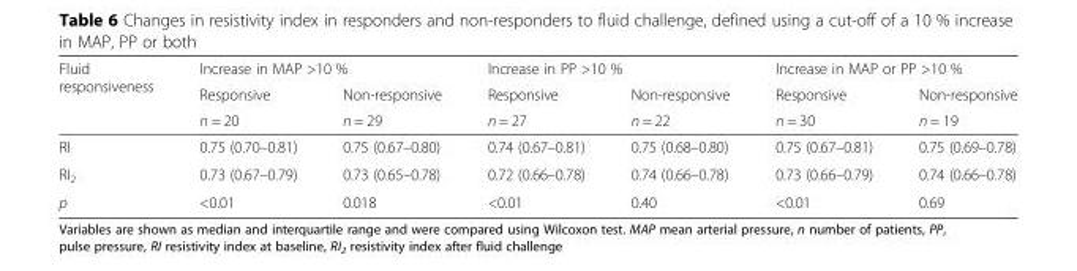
<table><thead><tr><td rowspan="3">Fluid responsiveness</td><td colspan="2">Increase in MAP &gt;10 %</td><td colspan="2">Increase in PP &gt;10 %</td><td colspan="2">Increase in MAP or PP &gt;10 %</td></tr><tr><td rowspan="2">Responsive n = 20</td><td rowspan="2">Non-responsive n = 29</td><td rowspan="2">Responsive n = 27</td><td rowspan="2">Non-responsive n = 22</td><td rowspan="2">Responsive n = 30</td><td rowspan="2">Non-responsive n = 19</td></tr><tr></tr></thead><tbody><tr><td>RI</td><td>0.75 (0.70–0.81)</td><td>0.75 (0.67–0.80)</td><td>0.74 (0.67–0.81)</td><td>0.75 (0.68–0.80)</td><td>0.75 (0.67–0.81)</td><td>0.75 (0.69–0.78)</td></tr><tr><td>RI<sub>2</sub></td><td>0.73 (0.67–0.79)</td><td>0.73 (0.65–0.78)</td><td>0.72 (0.66–0.78)</td><td>0.74 (0.66–0.78)</td><td>0.73 (0.66–0.79)</td><td>0.74 (0.66–0.78)</td></tr><tr><td>p</td><td>&lt;0.01</td><td>0.018</td><td>&lt;0.01</td><td>0.40</td><td>&lt;0.01</td><td>0.69</td></tr></tbody></table>